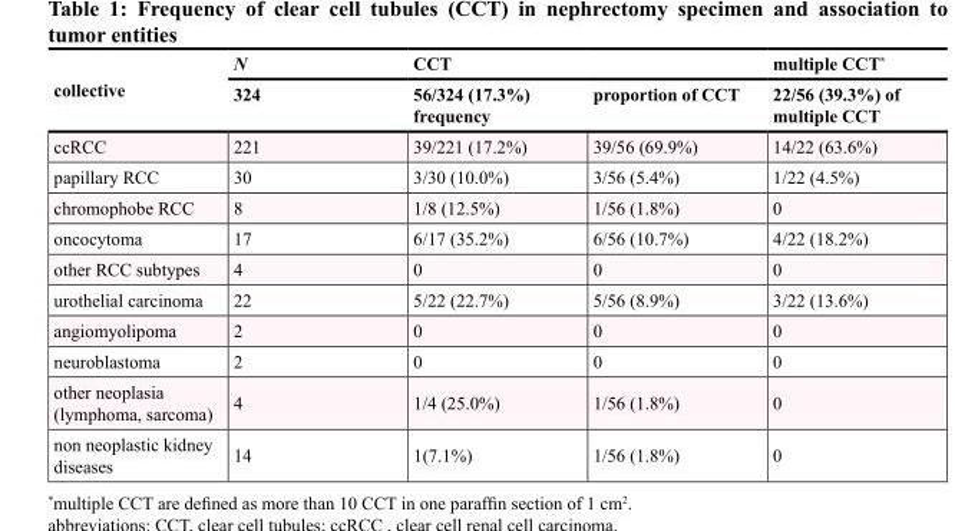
<table><thead><tr><td rowspan="2">collective</td><td rowspan="2">N 324</td><td colspan="2">CCT</td><td rowspan="2">multiple CCT* 22/56 (39.3%) of multiple CCT</td></tr><tr><td>56/324 (17.3%) frequency</td><td>proportion of CCT</td></tr></thead><tbody><tr><td>ccRCC</td><td>221</td><td>39/221 (17.2%)</td><td>39/56 (69.9%)</td><td>14/22 (63.6%)</td></tr><tr><td>papillary RCC</td><td>30</td><td>3/30 (10.0%)</td><td>3/56 (5.4%)</td><td>1/22 (4.5%)</td></tr><tr><td>chromophobe RCC</td><td>8</td><td>1/8 (12.5%)</td><td>1/56 (1.8%)</td><td>0</td></tr><tr><td>oncocytoma</td><td>17</td><td>6/17 (35.2%)</td><td>6/56 (10.7%)</td><td>4/22 (18.2%)</td></tr><tr><td>other RCC subtypes</td><td>4</td><td>0</td><td>0</td><td>0</td></tr><tr><td>urothelial carcinoma</td><td>22</td><td>5/22 (22.7%)</td><td>5/56 (8.9%)</td><td>3/22 (13.6%)</td></tr><tr><td>angiomyolipoma</td><td>2</td><td>0</td><td>0</td><td>0</td></tr><tr><td>neuroblastoma</td><td>2</td><td>0</td><td>0</td><td>0</td></tr><tr><td>other neoplasia (lymphoma, sarcoma)</td><td>4</td><td>1/4 (25.0%)</td><td>1/56 (1.8%)</td><td>0</td></tr><tr><td>non neoplastic kidney diseases</td><td>14</td><td>1(7.1%)</td><td>1/56 (1.8%)</td><td>0</td></tr></tbody></table>